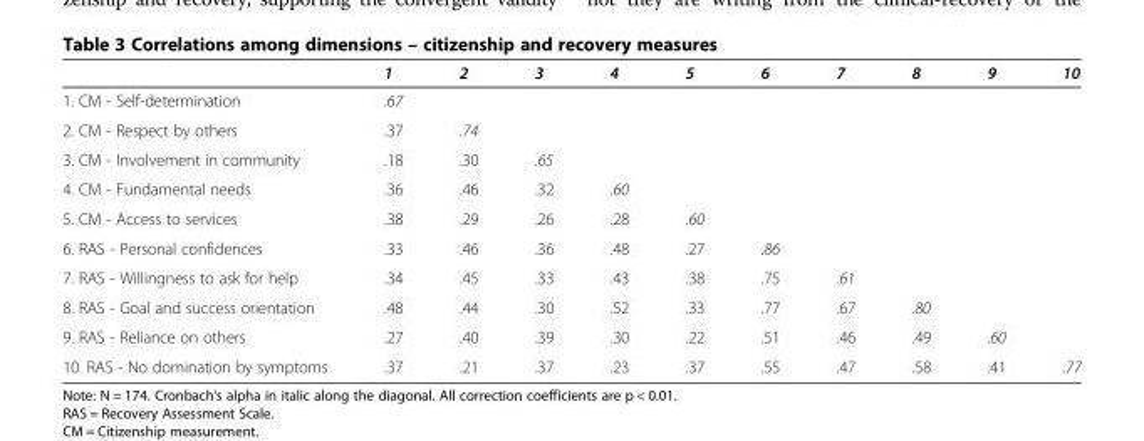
<table><thead><tr><td></td><td>1</td><td>2</td><td>3</td><td>4</td><td>5</td><td>6</td><td>7</td><td>8</td><td>9</td><td>10</td></tr></thead><tbody><tr><td>1. CM - Self-determination</td><td>.67</td><td></td><td></td><td></td><td></td><td></td><td></td><td></td><td></td><td></td></tr><tr><td>2. CM - Respect by others</td><td>.37</td><td>.74</td><td></td><td></td><td></td><td></td><td></td><td></td><td></td><td></td></tr><tr><td>3. CM - Involvement in community</td><td>.18</td><td>.30</td><td>.65</td><td></td><td></td><td></td><td></td><td></td><td></td><td></td></tr><tr><td>4. CM - Fundamental needs</td><td>.36</td><td>.46</td><td>.32</td><td>.60</td><td></td><td></td><td></td><td></td><td></td><td></td></tr><tr><td>5. CM - Access to services</td><td>.38</td><td>.29</td><td>.26</td><td>.28</td><td>.60</td><td></td><td></td><td></td><td></td><td></td></tr><tr><td>6. RAS - Personal confidences</td><td>.33</td><td>.46</td><td>.36</td><td>.48</td><td>.27</td><td>.86</td><td></td><td></td><td></td><td></td></tr><tr><td>7. RAS - Willingness to ask for help</td><td>.34</td><td>.45</td><td>.33</td><td>.43</td><td>.38</td><td>.75</td><td>.61</td><td></td><td></td><td></td></tr><tr><td>8. RAS - Goal and success orientation</td><td>.48</td><td>.44</td><td>.30</td><td>.52</td><td>.33</td><td>.77</td><td>.67</td><td>.80</td><td></td><td></td></tr><tr><td>9. RAS - Reliance on others</td><td>.27</td><td>.40</td><td>.39</td><td>.30</td><td>.22</td><td>.51</td><td>.46</td><td>.49</td><td>.60</td><td></td></tr><tr><td>10. RAS - No domination by symptoms</td><td>.37</td><td>.21</td><td>.37</td><td>.23</td><td>.37</td><td>.55</td><td>.47</td><td>.58</td><td>.41</td><td>.77</td></tr></tbody></table>